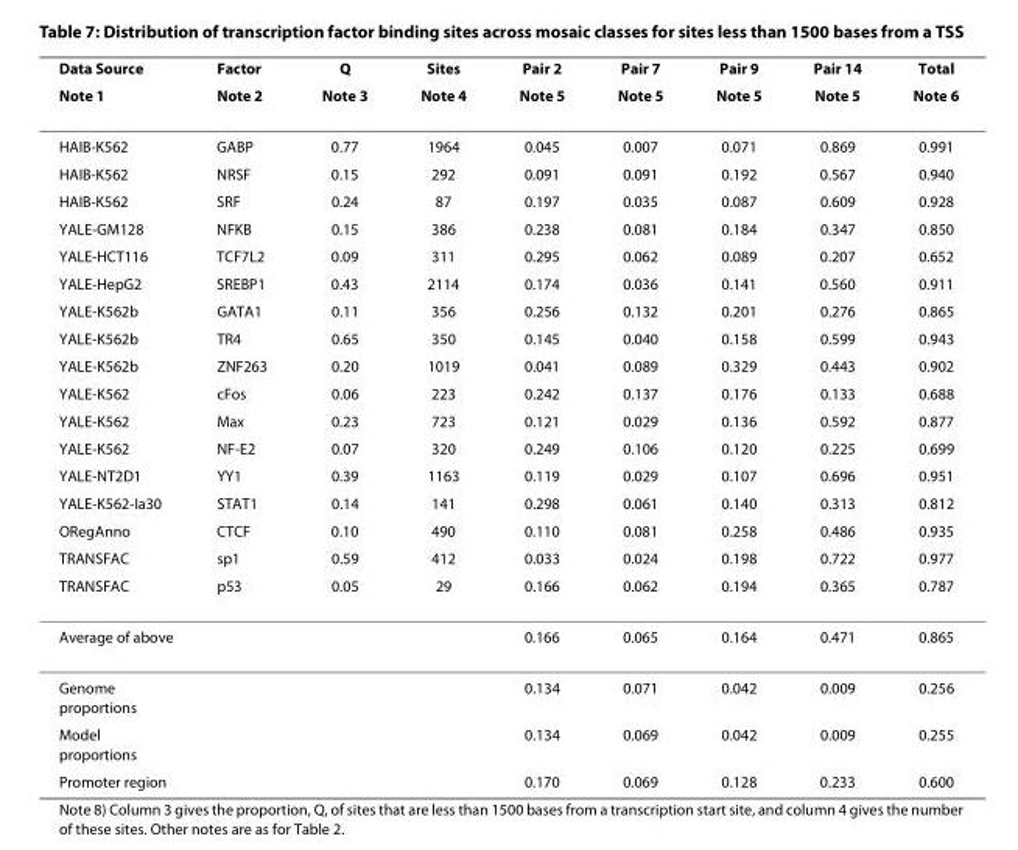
<table><thead><tr><td rowspan="2">Data Source Note 1</td><td rowspan="2">Factor Note 2</td><td rowspan="2">Q Note 3</td><td rowspan="2">Sites Note 4</td><td rowspan="2">Pair 2 Note 5</td><td rowspan="2">Pair 7 Note 5</td><td rowspan="2">Pair 9 Note 5</td><td rowspan="2">Pair 14 Note 5</td><td rowspan="2">Total Note 6</td></tr><tr></tr></thead><tbody><tr><td>HAIB-K562</td><td>GABP</td><td>0.77</td><td>1964</td><td>0.045</td><td>0.007</td><td>0.071</td><td>0.869</td><td>0.991</td></tr><tr><td>HAIB-K562</td><td>NRSF</td><td>0.15</td><td>292</td><td>0.091</td><td>0.091</td><td>0.192</td><td>0.567</td><td>0.940</td></tr><tr><td>HAIB-K562</td><td>SRF</td><td>0.24</td><td>87</td><td>0.197</td><td>0.035</td><td>0.087</td><td>0.609</td><td>0.928</td></tr><tr><td>YALE-GM128</td><td>NFKB</td><td>0.15</td><td>386</td><td>0.238</td><td>0.081</td><td>0.184</td><td>0.347</td><td>0.850</td></tr><tr><td>YALE-HCT116</td><td>TCF7L2</td><td>0.09</td><td>311</td><td>0.295</td><td>0.062</td><td>0.089</td><td>0.207</td><td>0.652</td></tr><tr><td>YALE-HepG2</td><td>SREBP1</td><td>0.43</td><td>2114</td><td>0.174</td><td>0.036</td><td>0.141</td><td>0.560</td><td>0.911</td></tr><tr><td>YALE-K562b</td><td>GATA1</td><td>0.11</td><td>356</td><td>0.256</td><td>0.132</td><td>0.201</td><td>0.276</td><td>0.865</td></tr><tr><td>YALE-K562b</td><td>TR4</td><td>0.65</td><td>350</td><td>0.145</td><td>0.040</td><td>0.158</td><td>0.599</td><td>0.943</td></tr><tr><td>YALE-K562b</td><td>ZNF263</td><td>0.20</td><td>1019</td><td>0.041</td><td>0.089</td><td>0.329</td><td>0.443</td><td>0.902</td></tr><tr><td>YALE-K562</td><td>cFos</td><td>0.06</td><td>223</td><td>0.242</td><td>0.137</td><td>0.176</td><td>0.133</td><td>0.688</td></tr><tr><td>YALE-K562</td><td>Max</td><td>0.23</td><td>723</td><td>0.121</td><td>0.029</td><td>0.136</td><td>0.592</td><td>0.877</td></tr><tr><td>YALE-K562</td><td>NF-E2</td><td>0.07</td><td>320</td><td>0.249</td><td>0.106</td><td>0.120</td><td>0.225</td><td>0.699</td></tr><tr><td>YALE-NT2D1</td><td>YY1</td><td>0.39</td><td>1163</td><td>0.119</td><td>0.029</td><td>0.107</td><td>0.696</td><td>0.951</td></tr><tr><td>YALE-K562-Ia30</td><td>STAT1</td><td>0.14</td><td>141</td><td>0.298</td><td>0.061</td><td>0.140</td><td>0.313</td><td>0.812</td></tr><tr><td>ORegAnno</td><td>CTCF</td><td>0.10</td><td>490</td><td>0.110</td><td>0.081</td><td>0.258</td><td>0.486</td><td>0.935</td></tr><tr><td>TRANSFAC</td><td>sp1</td><td>0.59</td><td>412</td><td>0.033</td><td>0.024</td><td>0.198</td><td>0.722</td><td>0.977</td></tr><tr><td>TRANSFAC</td><td>p53</td><td>0.05</td><td>29</td><td>0.166</td><td>0.062</td><td>0.194</td><td>0.365</td><td>0.787</td></tr><tr><td>Average of above</td><td></td><td></td><td></td><td>0.166</td><td>0.065</td><td>0.164</td><td>0.471</td><td>0.865</td></tr><tr><td>Genome proportions</td><td></td><td></td><td></td><td>0.134</td><td>0.071</td><td>0.042</td><td>0.009</td><td>0.256</td></tr><tr><td>Model proportions</td><td></td><td></td><td></td><td>0.134</td><td>0.069</td><td>0.042</td><td>0.009</td><td>0.255</td></tr><tr><td>Promoter region</td><td></td><td></td><td></td><td>0.170</td><td>0.069</td><td>0.128</td><td>0.233</td><td>0.600</td></tr></tbody></table>